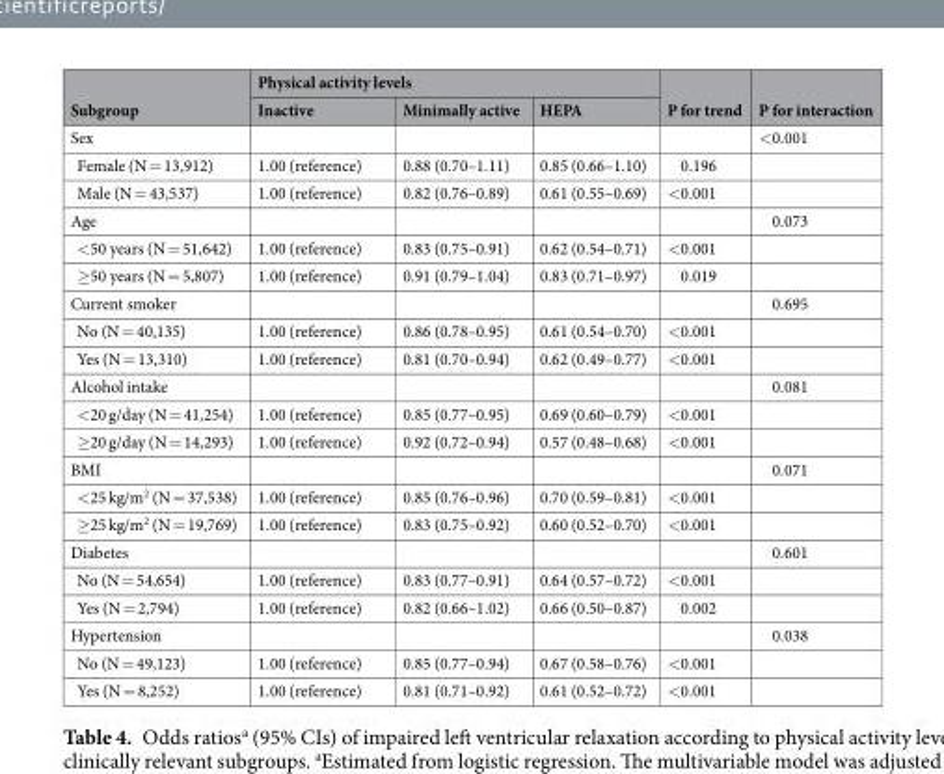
<table><thead><tr><td rowspan="2">Subgroup</td><td colspan="3">Physical activity levels</td><td rowspan="2">P for trend</td><td rowspan="2">P for interaction</td></tr><tr><td>Inactive</td><td>Minimally active</td><td>HEPA</td></tr></thead><tbody><tr><td>Sex</td><td></td><td></td><td></td><td></td><td>&lt;0.001</td></tr><tr><td>Female (N = 13,912)</td><td>1.00 (reference)</td><td>0.88 (0.70–1.11)</td><td>0.85 (0.66–1.10)</td><td>0.196</td><td></td></tr><tr><td>Male (N = 43,537)</td><td>1.00 (reference)</td><td>0.82 (0.76–0.89)</td><td>0.61 (0.55–0.69)</td><td>&lt;0.001</td><td></td></tr><tr><td>Age</td><td></td><td></td><td></td><td></td><td>0.073</td></tr><tr><td>&lt;50 years (N = 51,642)</td><td>1.00 (reference)</td><td>0.83 (0.75–0.91)</td><td>0.62 (0.54–0.71)</td><td>&lt;0.001</td><td></td></tr><tr><td>≥50 years (N = 5,807)</td><td>1.00 (reference)</td><td>0.91 (0.79–1.04)</td><td>0.83 (0.71–0.97)</td><td>0.019</td><td></td></tr><tr><td>Current smoker</td><td></td><td></td><td></td><td></td><td>0.695</td></tr><tr><td>No (N = 40,135)</td><td>1.00 (reference)</td><td>0.86 (0.78–0.95)</td><td>0.61 (0.54–0.70)</td><td>&lt;0.001</td><td></td></tr><tr><td>Yes (N = 13,310)</td><td>1.00 (reference)</td><td>0.81 (0.70–0.94)</td><td>0.62 (0.49–0.77)</td><td>&lt;0.001</td><td></td></tr><tr><td>Alcohol intake</td><td></td><td></td><td></td><td></td><td>0.081</td></tr><tr><td>&lt;20 g/day (N = 41,254)</td><td>1.00 (reference)</td><td>0.85 (0.77–0.95)</td><td>0.69 (0.60–0.79)</td><td>&lt;0.001</td><td></td></tr><tr><td>≥20 g/day (N = 14,293)</td><td>1.00 (reference)</td><td>0.92 (0.72–0.94)</td><td>0.57 (0.48–0.68)</td><td>&lt;0.001</td><td></td></tr><tr><td>BMI</td><td></td><td></td><td></td><td></td><td>0.071</td></tr><tr><td>&lt;25 kg/m<sup>2</sup> (N = 37,538)</td><td>1.00 (reference)</td><td>0.85 (0.76–0.96)</td><td>0.70 (0.59–0.81)</td><td>&lt;0.001</td><td></td></tr><tr><td>≥25 kg/m<sup>2</sup> (N = 19,769)</td><td>1.00 (reference)</td><td>0.83 (0.75–0.92)</td><td>0.60 (0.52–0.70)</td><td>&lt;0.001</td><td></td></tr><tr><td>Diabetes</td><td></td><td></td><td></td><td></td><td>0.601</td></tr><tr><td>No (N = 54,654)</td><td>1.00 (reference)</td><td>0.83 (0.77–0.91)</td><td>0.64 (0.57–0.72)</td><td>&lt;0.001</td><td></td></tr><tr><td>Yes (N = 2,794)</td><td>1.00 (reference)</td><td>0.82 (0.66–1.02)</td><td>0.66 (0.50–0.87)</td><td>0.002</td><td></td></tr><tr><td>Hypertension</td><td></td><td></td><td></td><td></td><td>0.038</td></tr><tr><td>No (N = 49,123)</td><td>1.00 (reference)</td><td>0.85 (0.77–0.94)</td><td>0.67 (0.58–0.76)</td><td>&lt;0.001</td><td></td></tr><tr><td>Yes (N = 8,252)</td><td>1.00 (reference)</td><td>0.81 (0.71–0.92)</td><td>0.61 (0.52–0.72)</td><td>&lt;0.001</td><td></td></tr></tbody></table>